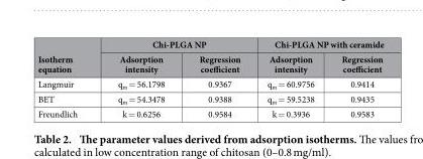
<table><thead><tr><td rowspan="2">Isotherm equation</td><td colspan="2">Chi-PLGA NP</td><td colspan="2">Chi-PLGA NP with ceramide</td></tr><tr><td>Adsorption intensity</td><td>Regression coefficient</td><td>Adsorption intensity</td><td>Regression coefficient</td></tr></thead><tbody><tr><td>Langmuir</td><td>q<sub>m</sub> = 56.1798</td><td>0.9367</td><td>q<sub>m</sub> = 60.9756</td><td>0.9414</td></tr><tr><td>BET</td><td>q<sub>m</sub> = 54.3478</td><td>0.9388</td><td>q<sub>m</sub> = 59.5238</td><td>0.9435</td></tr><tr><td>Freundlich</td><td>k = 0.6256</td><td>0.9584</td><td>k = 0.3936</td><td>0.9583</td></tr></tbody></table>